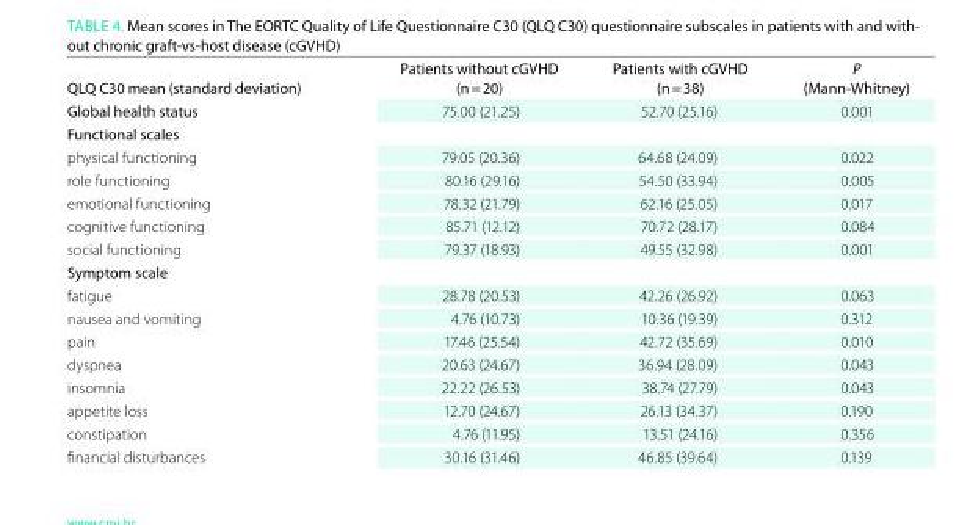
<table><thead><tr><td>QLQ C30 mean (standard deviation)</td><td>Patients without cGVhD (n = 20)</td><td>Patients with cGVhD (n = 38)</td><td>P (mann-Whitney)</td></tr></thead><tbody><tr><td>Global health status</td><td>75.00 (21.25)</td><td>52.70 (25.16)</td><td>0.001</td></tr><tr><td colspan="4">Functional scales</td></tr><tr><td>physical functioning</td><td>79.05 (20.36)</td><td>64.68 (24.09)</td><td>0.022</td></tr><tr><td>role functioning</td><td>80.16 (29.16)</td><td>54.50 (33.94)</td><td>0.005</td></tr><tr><td>emotional functioning</td><td>78.32 (21.79)</td><td>62.16 (25.05)</td><td>0.017</td></tr><tr><td>cognitive functioning</td><td>85.71 (12.12)</td><td>70.72 (28.17)</td><td>0.084</td></tr><tr><td>social functioning</td><td>79.37 (18.93)</td><td>49.55 (32.98)</td><td>0.001</td></tr><tr><td colspan="4">Symptom scale</td></tr><tr><td>fatigue</td><td>28.78 (20.53)</td><td>42.26 (26.92)</td><td>0.063</td></tr><tr><td>nausea and vomiting</td><td>4.76 (10.73)</td><td>10.36 (19.39)</td><td>0.312</td></tr><tr><td>pain</td><td>17.46 (25.54)</td><td>42.72 (35.69)</td><td>0.010</td></tr><tr><td>dyspnea</td><td>20.63 (24.67)</td><td>36.94 (28.09)</td><td>0.043</td></tr><tr><td>insomnia</td><td>22.22 (26.53)</td><td>38.74 (27.79)</td><td>0.043</td></tr><tr><td>appetite loss</td><td>12.70 (24.67)</td><td>26.13 (34.37)</td><td>0.190</td></tr><tr><td>constipation</td><td>4.76 (11.95)</td><td>13.51 (24.16)</td><td>0.356</td></tr><tr><td>financial disturbances</td><td>30.16 (31.46)</td><td>46.85 (39.64)</td><td>0.139</td></tr></tbody></table>